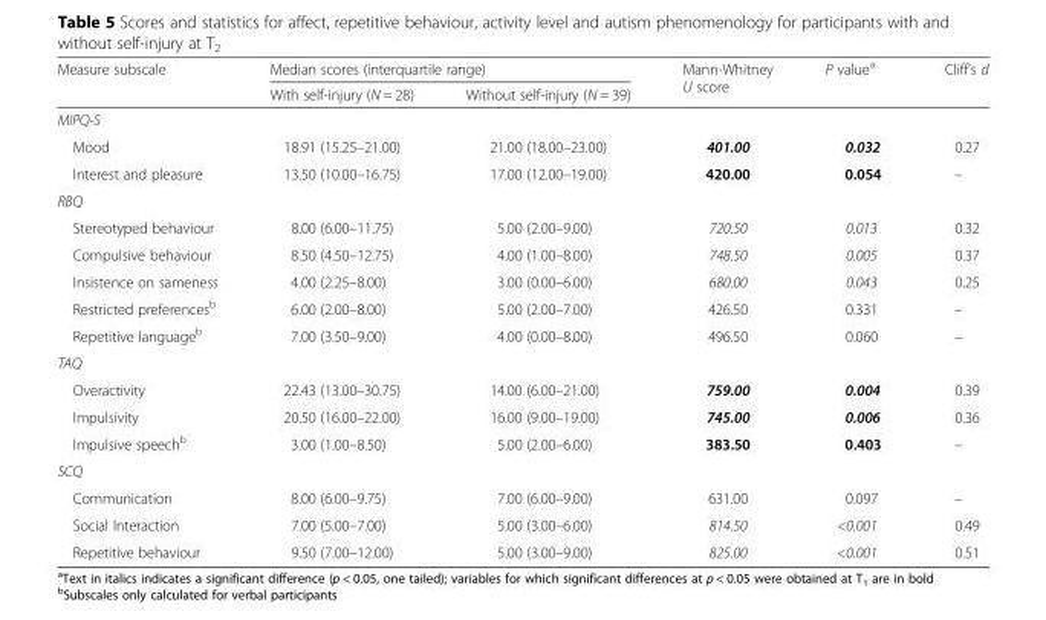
<table><thead><tr><td rowspan="2">Measure subscale</td><td colspan="2">Median scores (interquartile range)</td><td rowspan="2">Mann-Whitney U score</td><td rowspan="2">P value<sup>a</sup></td><td rowspan="2">Cliff’s d</td></tr><tr><td>With self-injury (N = 28)</td><td>Without self-injury (N = 39)</td></tr></thead><tbody><tr><td colspan="6">MIPQ-S</td></tr><tr><td>Mood</td><td>18.91 (15.25–21.00)</td><td>21.00 (18.00–23.00)</td><td>401.00</td><td>0.032</td><td>0.27</td></tr><tr><td>Interest and pleasure</td><td>13.50 (10.00–16.75)</td><td>17.00 (12.00–19.00)</td><td>420.00</td><td>0.054</td><td>–</td></tr><tr><td colspan="6">RBQ</td></tr><tr><td>Stereotyped behaviour</td><td>8.00 (6.00–11.75)</td><td>5.00 (2.00–9.00)</td><td>720.50</td><td>0.013</td><td>0.32</td></tr><tr><td>Compulsive behaviour</td><td>8.50 (4.50–12.75)</td><td>4.00 (1.00–8.00)</td><td>748.50</td><td>0.005</td><td>0.37</td></tr><tr><td>Insistence on sameness</td><td>4.00 (2.25–8.00)</td><td>3.00 (0.00–6.00)</td><td>680.00</td><td>0.043</td><td>0.25</td></tr><tr><td>Restricted preferences<sup>b</sup></td><td>6.00 (2.00–8.00)</td><td>5.00 (2.00–7.00)</td><td>426.50</td><td>0.331</td><td>–</td></tr><tr><td>Repetitive language<sup>b</sup></td><td>7.00 (3.50–9.00)</td><td>4.00 (0.00–8.00)</td><td>496.50</td><td>0.060</td><td>–</td></tr><tr><td colspan="6">TAQ</td></tr><tr><td>Overactivity</td><td>22.43 (13.00–30.75)</td><td>14.00 (6.00–21.00)</td><td>759.00</td><td>0.004</td><td>0.39</td></tr><tr><td>Impulsivity</td><td>20.50 (16.00–22.00)</td><td>16.00 (9.00–19.00)</td><td>745.00</td><td>0.006</td><td>0.36</td></tr><tr><td>Impulsive speech<sup>b</sup></td><td>3.00 (1.00–8.50)</td><td>5.00 (2.00–6.00)</td><td>383.50</td><td>0.403</td><td>–</td></tr><tr><td colspan="6">SCQ</td></tr><tr><td>Communication</td><td>8.00 (6.00–9.75)</td><td>7.00 (6.00–9.00)</td><td>631.00</td><td>0.097</td><td>–</td></tr><tr><td>Social Interaction</td><td>7.00 (5.00–7.00)</td><td>5.00 (3.00–6.00)</td><td>814.50</td><td>&lt;0.001</td><td>0.49</td></tr><tr><td>Repetitive behaviour</td><td>9.50 (7.00–12.00)</td><td>5.00 (3.00–9.00)</td><td>825.00</td><td>&lt;0.001</td><td>0.51</td></tr></tbody></table>